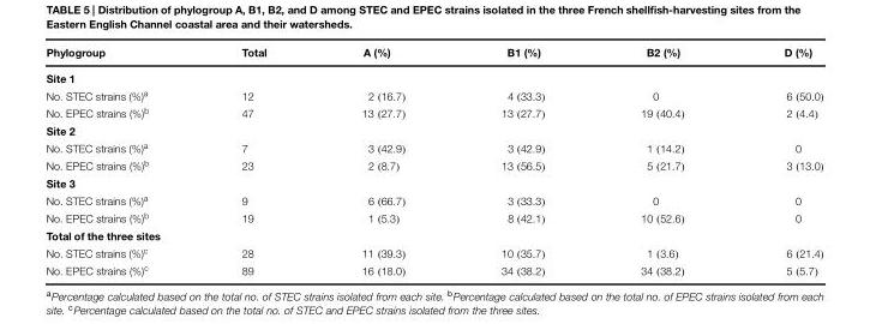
<table><thead><tr><td>Phylogroup</td><td>Total</td><td>A (%)</td><td>B1 (%)</td><td>B2 (%)</td><td>D (%)</td></tr></thead><tbody><tr><td colspan="6">Site 1</td></tr><tr><td>No. STEC strains (%)<sup>a</sup></td><td>12</td><td>2 (16.7)</td><td>4 (33.3)</td><td>0</td><td>6 (50.0)</td></tr><tr><td>No. EPEC strains (%)<sup>b</sup></td><td>47</td><td>13 (27.7)</td><td>13 (27.7)</td><td>19 (40.4)</td><td>2 (4.4)</td></tr><tr><td colspan="6">Site 2</td></tr><tr><td>No. STEC strains (%)<sup>a</sup></td><td>7</td><td>3 (42.9)</td><td>3 (42.9)</td><td>1 (14.2)</td><td>0</td></tr><tr><td>No. EPEC strains (%)<sup>b</sup></td><td>23</td><td>2 (8.7)</td><td>13 (56.5)</td><td>5 (21.7)</td><td>3 (13.0)</td></tr><tr><td colspan="6">Site 3</td></tr><tr><td>No. STEC strains (%)<sup>a</sup></td><td>9</td><td>6 (66.7)</td><td>3 (33.3)</td><td>0</td><td>0</td></tr><tr><td>No. EPEC strains (%)<sup>b</sup></td><td>19</td><td>1 (5.3)</td><td>8 (42.1)</td><td>10 (52.6)</td><td>0</td></tr><tr><td colspan="6">Total of the three sites</td></tr><tr><td>No. STEC strains (%)<sup>c</sup></td><td>28</td><td>11 (39.3)</td><td>10 (35.7)</td><td>1 (3.6)</td><td>6 (21.4)</td></tr><tr><td>No. EPEC strains (%)<sup>c</sup></td><td>89</td><td>16 (18.0)</td><td>34 (38.2)</td><td>34 (38.2)</td><td>5 (5.7)</td></tr></tbody></table>